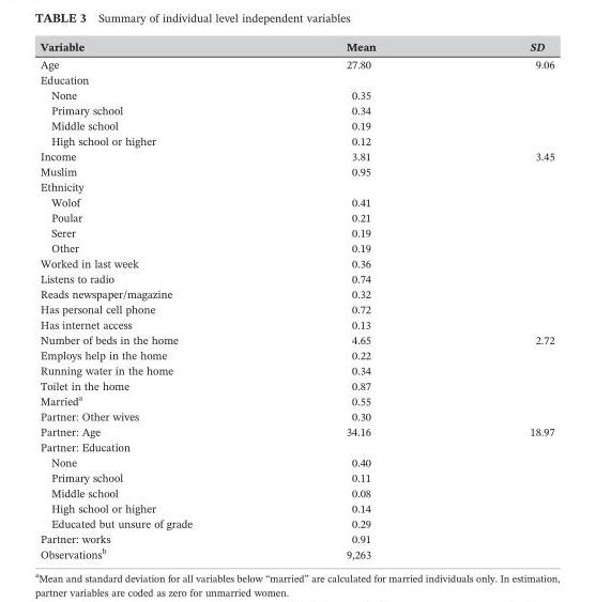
<table><thead><tr><td>Variable</td><td>Mean</td><td>SD</td></tr></thead><tbody><tr><td>Age</td><td>27.80</td><td>9.06</td></tr><tr><td colspan="3">Education</td></tr><tr><td>None</td><td>0.35</td><td></td></tr><tr><td>Primary school</td><td>0.34</td><td></td></tr><tr><td>Middle school</td><td>0.19</td><td></td></tr><tr><td>High school or higher</td><td>0.12</td><td></td></tr><tr><td>Income</td><td>3.81</td><td>3.45</td></tr><tr><td>Muslim</td><td>0.95</td><td></td></tr><tr><td colspan="3">Ethnicity</td></tr><tr><td>Wolof</td><td>0.41</td><td></td></tr><tr><td>Poular</td><td>0.21</td><td></td></tr><tr><td>Serer</td><td>0.19</td><td></td></tr><tr><td>Other</td><td>0.19</td><td></td></tr><tr><td>Worked in last week</td><td>0.36</td><td></td></tr><tr><td>Listens to radio</td><td>0.74</td><td></td></tr><tr><td>Reads newspaper/magazine</td><td>0.32</td><td></td></tr><tr><td>Has personal cell phone</td><td>0.72</td><td></td></tr><tr><td>Has internet access</td><td>0.13</td><td></td></tr><tr><td>Number of beds in the home</td><td>4.65</td><td>2.72</td></tr><tr><td>Employs help in the home</td><td>0.22</td><td></td></tr><tr><td>Running water in the home</td><td>0.34</td><td></td></tr><tr><td>Toilet in the home</td><td>0.87</td><td></td></tr><tr><td>Married<sup>a</sup></td><td>0.55</td><td></td></tr><tr><td>Partner: Other wives</td><td>0.30</td><td></td></tr><tr><td>Partner: Age</td><td>34.16</td><td>18.97</td></tr><tr><td colspan="3">Partner: Education</td></tr><tr><td>None</td><td>0.40</td><td></td></tr><tr><td>Primary school</td><td>0.11</td><td></td></tr><tr><td>Middle school</td><td>0.08</td><td></td></tr><tr><td>High school or higher</td><td>0.14</td><td></td></tr><tr><td>Educated but unsure of grade</td><td>0.29</td><td></td></tr><tr><td>Partner: works</td><td>0.91</td><td></td></tr><tr><td>Observations<sup>b</sup></td><td colspan="2">9,263</td></tr></tbody></table>